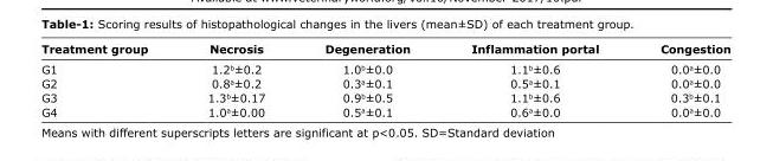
<table><thead><tr><td>Treatment group</td><td>Necrosis</td><td>Degeneration</td><td>Inflammation portal</td><td>Congestion</td></tr></thead><tbody><tr><td>G1</td><td>1.2<sup>b</sup>±0.2</td><td>1.0<sup>b</sup>±0.0</td><td>1.1<sup>b</sup>±0.6</td><td>0.0<sup>a</sup>±0.0</td></tr><tr><td>G2</td><td>0.8<sup>a</sup>±0.2</td><td>0.3<sup>a</sup>±0.1</td><td>0.5<sup>a</sup>±0.1</td><td>0.0<sup>a</sup>±0.0</td></tr><tr><td>G3</td><td>1.3<sup>b</sup>±0.17</td><td>0.9<sup>b</sup>±0.5</td><td>1.1<sup>b</sup>±0.6</td><td>0.3<sup>b</sup>±0.1</td></tr><tr><td>G4</td><td>1.0<sup>a</sup>±0.00</td><td>0.5<sup>a</sup>±0.1</td><td>0.6<sup>a</sup>±0.0</td><td>0.0<sup>a</sup>±0.0</td></tr></tbody></table>